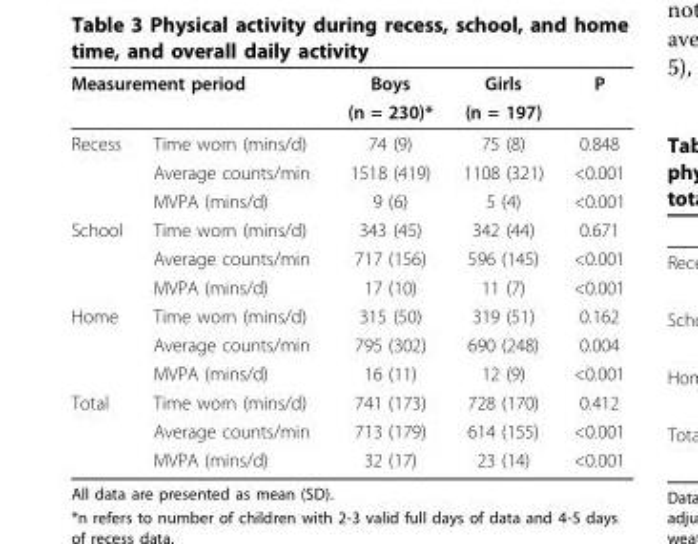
<table><thead><tr><td colspan="2">Measurement period</td><td rowspan="2">Boys (n = 230)*</td><td rowspan="2">Girls (n = 197)</td><td rowspan="2">P</td></tr><tr><td></td><td></td></tr></thead><tbody><tr><td rowspan="3">Recess</td><td>Time worn (mins/d)</td><td>74 (9)</td><td>75 (8)</td><td>0.848</td></tr><tr><td>Average counts/min</td><td>1518 (419)</td><td>1108 (321)</td><td>&lt;0.001</td></tr><tr><td>MVPA (mins/d)</td><td>9 (6)</td><td>5 (4)</td><td>&lt;0.001</td></tr><tr><td rowspan="3">School</td><td>Time worn (mins/d)</td><td>343 (45)</td><td>342 (44)</td><td>0.671</td></tr><tr><td>Average counts/min</td><td>717 (156)</td><td>596 (145)</td><td>&lt;0.001</td></tr><tr><td>MVPA (mins/d)</td><td>17 (10)</td><td>11 (7)</td><td>&lt;0.001</td></tr><tr><td rowspan="3">Home</td><td>Time worn (mins/d)</td><td>315 (50)</td><td>319 (51)</td><td>0.162</td></tr><tr><td>Average counts/min</td><td>795 (302)</td><td>690 (248)</td><td>0.004</td></tr><tr><td>MVPA (mins/d)</td><td>16 (11)</td><td>12 (9)</td><td>&lt;0.001</td></tr><tr><td rowspan="3">Total</td><td>Time worn (mins/d)</td><td>741 (173)</td><td>728 (170)</td><td>0.412</td></tr><tr><td>Average counts/min</td><td>713 (179)</td><td>614 (155)</td><td>&lt;0.001</td></tr><tr><td>MVPA (mins/d)</td><td>32 (17)</td><td>23 (14)</td><td>&lt;0.001</td></tr></tbody></table>